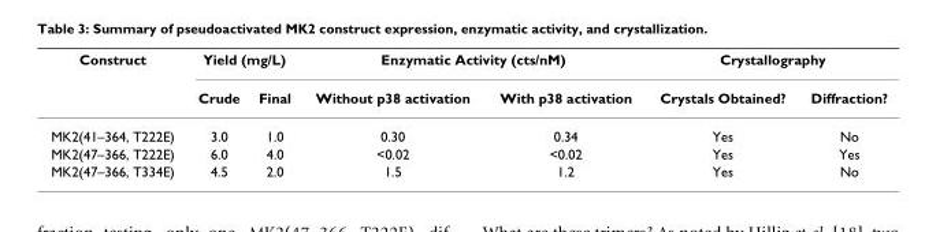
<table><thead><tr><td rowspan="2">Construct</td><td colspan="2">Yield (mg/L)</td><td colspan="2">Enzymatic Activity (cts/nM)</td><td colspan="2">Crystallography</td></tr><tr><td>Crude</td><td>Final</td><td>Without p38 activation</td><td>With p38 activation</td><td>Crystals Obtained?</td><td>Diffraction?</td></tr></thead><tbody><tr><td>MK2(41–364, T222E)</td><td>3.0</td><td>1.0</td><td>0.30</td><td>0.34</td><td>Yes</td><td>No</td></tr><tr><td>MK2(47–366, T222E)</td><td>6.0</td><td>4.0</td><td>&lt;0.02</td><td>&lt;0.02</td><td>Yes</td><td>Yes</td></tr><tr><td>MK2(47–366, T334E)</td><td>4.5</td><td>2.0</td><td>1.5</td><td>1.2</td><td>Yes</td><td>No</td></tr></tbody></table>